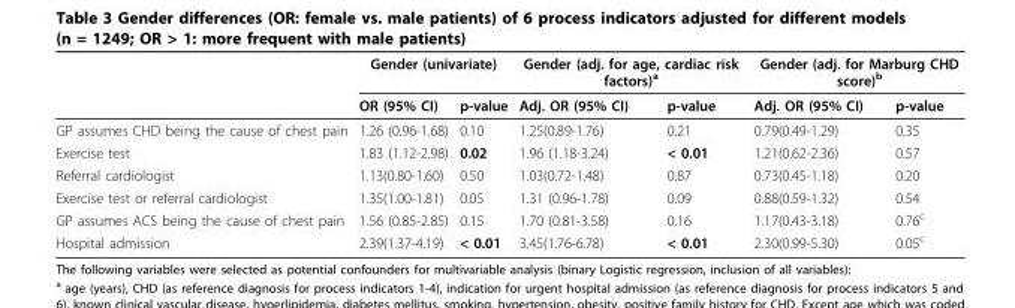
<table><thead><tr><td rowspan="2"></td><td colspan="2">Gender (univariate)</td><td colspan="2">Gender (adj. for age, cardiac risk factors)<sup>a</sup></td><td colspan="2">Gender (adj. for Marburg CHD score)<sup>b</sup></td></tr><tr><td>OR (95% CI)</td><td>p-value</td><td>Adj. OR (95% CI)</td><td>p-value</td><td>Adj. OR (95% CI)</td><td>p-value</td></tr></thead><tbody><tr><td>GP assumes CHD being the cause of chest pain</td><td>1.26 (0.96-1.68)</td><td>0.10</td><td>1.25(0.89-1.76)</td><td>0.21</td><td>0.79(0.49-1.29)</td><td>0.35</td></tr><tr><td>Exercise test</td><td>1.83 (1.12-2.98)</td><td>0.02</td><td>1.96 (1.18-3.24)</td><td>&lt; 0.01</td><td>1.21(0.62-2.36)</td><td>0.57</td></tr><tr><td>Referral cardiologist</td><td>1.13(0.80-1.60)</td><td>0.50</td><td>1.03(0.72-1.48)</td><td>0.87</td><td>0.73(0.45-1.18)</td><td>0.20</td></tr><tr><td>Exercise test or referral cardiologist</td><td>1.35(1.00-1.81)</td><td>0.05</td><td>1.31 (0.96-1.78)</td><td>0.09</td><td>0.88(0.59-1.32)</td><td>0.54</td></tr><tr><td>GP assumes ACS being the cause of chest pain</td><td>1.56 (0.85-2.85)</td><td>0.15</td><td>1.70 (0.81-3.58)</td><td>0.16</td><td>1.17(0.43-3.18)</td><td>0.76<sup>c</sup></td></tr><tr><td>Hospital admission</td><td>2.39(1.37-4.19)</td><td>&lt; 0.01</td><td>3.45(1.76-6.78)</td><td>&lt; 0.01</td><td>2.30(0.99-5.30)</td><td>0.05<sup>c</sup></td></tr></tbody></table>